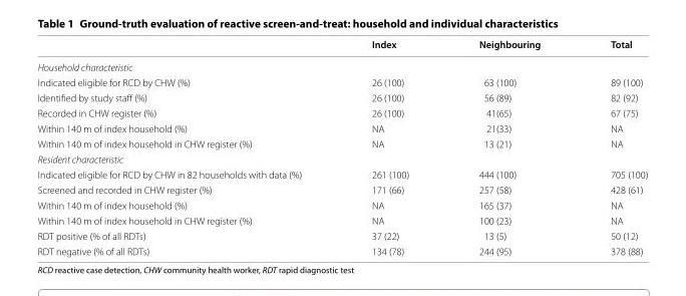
<table><thead><tr><td></td><td>Index</td><td>Neighbouring</td><td>Total</td></tr></thead><tbody><tr><td colspan="4">Household characteristic</td></tr><tr><td>Indicated eligible for RCD by CHW (%)</td><td>26 (100)</td><td>63 (100)</td><td>89 (100)</td></tr><tr><td>Identified by study staff (%)</td><td>26 (100)</td><td>56 (89)</td><td>82 (92)</td></tr><tr><td>Recorded in CHW register (%)</td><td>26 (100)</td><td>41(65)</td><td>67 (75)</td></tr><tr><td>Within 140 m of index household (%)</td><td>NA</td><td>21(33)</td><td>NA</td></tr><tr><td>Within 140 m of index household in CHW register (%)</td><td>NA</td><td>13 (21)</td><td>NA</td></tr><tr><td colspan="4">Resident characteristic</td></tr><tr><td>Indicated eligible for RCD by CHW in 82 households with data (%)</td><td>261 (100)</td><td>444 (100)</td><td>705 (100)</td></tr><tr><td>Screened and recorded in CHW register (%)</td><td>171 (66)</td><td>257 (58)</td><td>428 (61)</td></tr><tr><td>Within 140 m of index household (%)</td><td>NA</td><td>165 (37)</td><td>NA</td></tr><tr><td>Within 140 m of index household in CHW register (%)</td><td>NA</td><td>100 (23)</td><td>NA</td></tr><tr><td>RDT positive (% of all RDTs)</td><td>37 (22)</td><td>13 (5)</td><td>50 (12)</td></tr><tr><td>RDT negative (% of all RDTs)</td><td>134 (78)</td><td>244 (95)</td><td>378 (88)</td></tr></tbody></table>